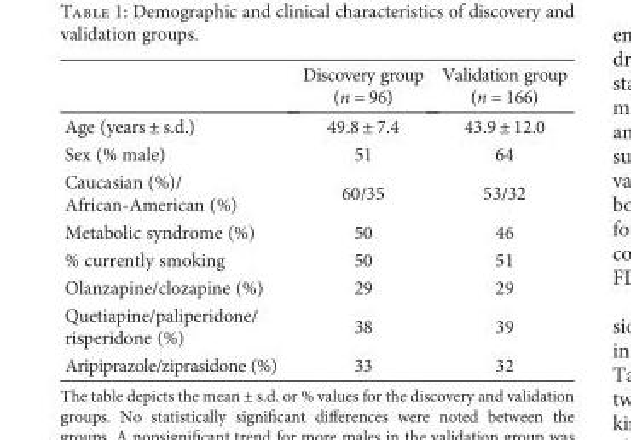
<table><thead><tr><td></td><td>Discovery group (n = 96)</td><td>Validation group (n = 166)</td></tr></thead><tbody><tr><td>Age (years ± s.d.)</td><td>49.8 ± 7.4</td><td>43.9 ± 12.0</td></tr><tr><td>Sex (% male)</td><td>51</td><td>64</td></tr><tr><td>Caucasian (%)/ African-American (%)</td><td>60/35</td><td>53/32</td></tr><tr><td>Metabolic syndrome (%)</td><td>50</td><td>46</td></tr><tr><td>% currently smoking</td><td>50</td><td>51</td></tr><tr><td>Olanzapine/clozapine (%)</td><td>29</td><td>29</td></tr><tr><td>Quetiapine/paliperidone/ risperidone (%)</td><td>38</td><td>39</td></tr><tr><td>Aripiprazole/ziprasidone (%)</td><td>33</td><td>32</td></tr></tbody></table>